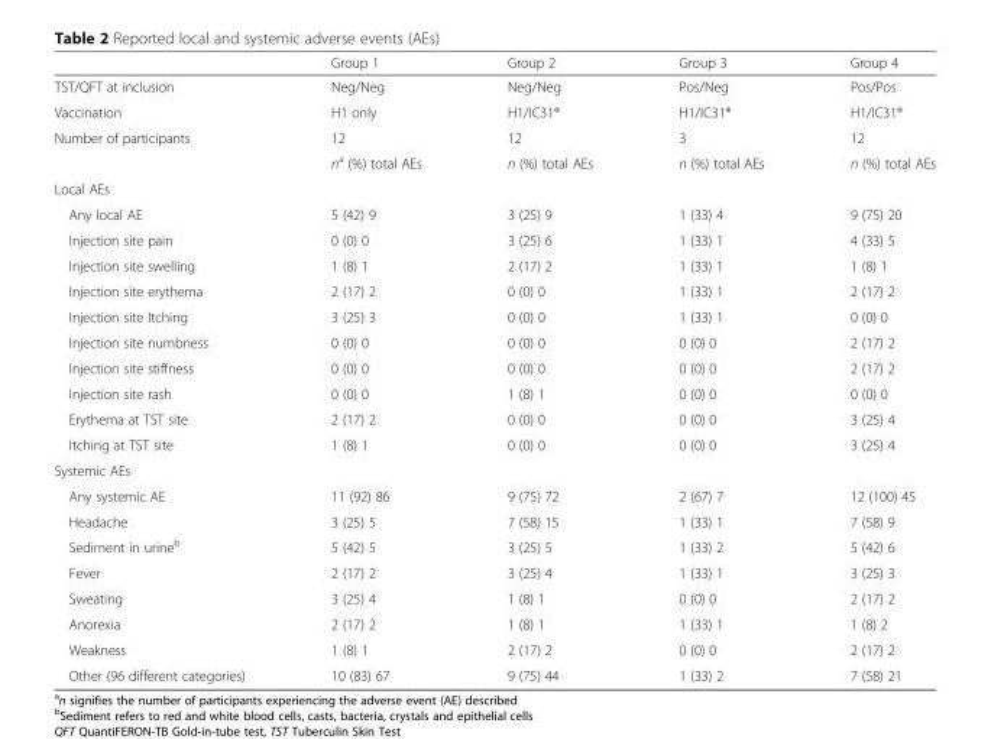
<table><thead><tr><td></td><td>Group 1</td><td>Group 2</td><td>Group 3</td><td>Group 4</td></tr></thead><tbody><tr><td>TST/QFT at inclusion</td><td>Neg/Neg</td><td>Neg/Neg</td><td>Pos/Neg</td><td>Pos/Pos</td></tr><tr><td>Vaccination</td><td>H1 only</td><td>H1/IC31®</td><td>H1/IC31®</td><td>H1/IC31®</td></tr><tr><td rowspan="2">Number of participants</td><td>12</td><td>12</td><td>3</td><td>12</td></tr><tr><td>n<sup>a</sup> (%) total AEs</td><td>n (%) total AEs</td><td>n (%) total AEs</td><td>n (%) total AEs</td></tr><tr><td colspan="5">Local AEs</td></tr><tr><td>Any local AE</td><td>5 (42) 9</td><td>3 (25) 9</td><td>1 (33) 4</td><td>9 (75) 20</td></tr><tr><td>Injection site pain</td><td>0 (0) 0</td><td>3 (25) 6</td><td>1 (33) 1</td><td>4 (33) 5</td></tr><tr><td>Injection site swelling</td><td>1 (8) 1</td><td>2 (17) 2</td><td>1 (33) 1</td><td>1 (8) 1</td></tr><tr><td>Injection site erythema</td><td>2 (17) 2</td><td>0 (0) 0</td><td>1 (33) 1</td><td>2 (17) 2</td></tr><tr><td>Injection site Itching</td><td>3 (25) 3</td><td>0 (0) 0</td><td>1 (33) 1</td><td>0 (0) 0</td></tr><tr><td>Injection site numbness</td><td>0 (0) 0</td><td>0 (0) 0</td><td>0 (0) 0</td><td>2 (17) 2</td></tr><tr><td>Injection site stiffness</td><td>0 (0) 0</td><td>0 (0) 0</td><td>0 (0) 0</td><td>2 (17) 2</td></tr><tr><td>Injection site rash</td><td>0 (0) 0</td><td>1 (8) 1</td><td>0 (0) 0</td><td>0 (0) 0</td></tr><tr><td>Erythema at TST site</td><td>2 (17) 2</td><td>0 (0) 0</td><td>0 (0) 0</td><td>3 (25) 4</td></tr><tr><td>Itching at TST site</td><td>1 (8) 1</td><td>0 (0) 0</td><td>0 (0) 0</td><td>3 (25) 4</td></tr><tr><td colspan="5">Systemic AEs</td></tr><tr><td>Any systemic AE</td><td>11 (92) 86</td><td>9 (75) 72</td><td>2 (67) 7</td><td>12 (100) 45</td></tr><tr><td>Headache</td><td>3 (25) 5</td><td>7 (58) 15</td><td>1 (33) 1</td><td>7 (58) 9</td></tr><tr><td>Sediment in urine<sup>b</sup></td><td>5 (42) 5</td><td>3 (25) 5</td><td>1 (33) 2</td><td>5 (42) 6</td></tr><tr><td>Fever</td><td>2 (17) 2</td><td>3 (25) 4</td><td>1 (33) 1</td><td>3 (25) 3</td></tr><tr><td>Sweating</td><td>3 (25) 4</td><td>1 (8) 1</td><td>0 (0) 0</td><td>2 (17) 2</td></tr><tr><td>Anorexia</td><td>2 (17) 2</td><td>1 (8) 1</td><td>1 (33) 1</td><td>1 (8) 2</td></tr><tr><td>Weakness</td><td>1 (8) 1</td><td>2 (17) 2</td><td>0 (0) 0</td><td>2 (17) 2</td></tr><tr><td>Other (96 different categories)</td><td>10 (83) 67</td><td>9 (75) 44</td><td>1 (33) 2</td><td>7 (58) 21</td></tr></tbody></table>